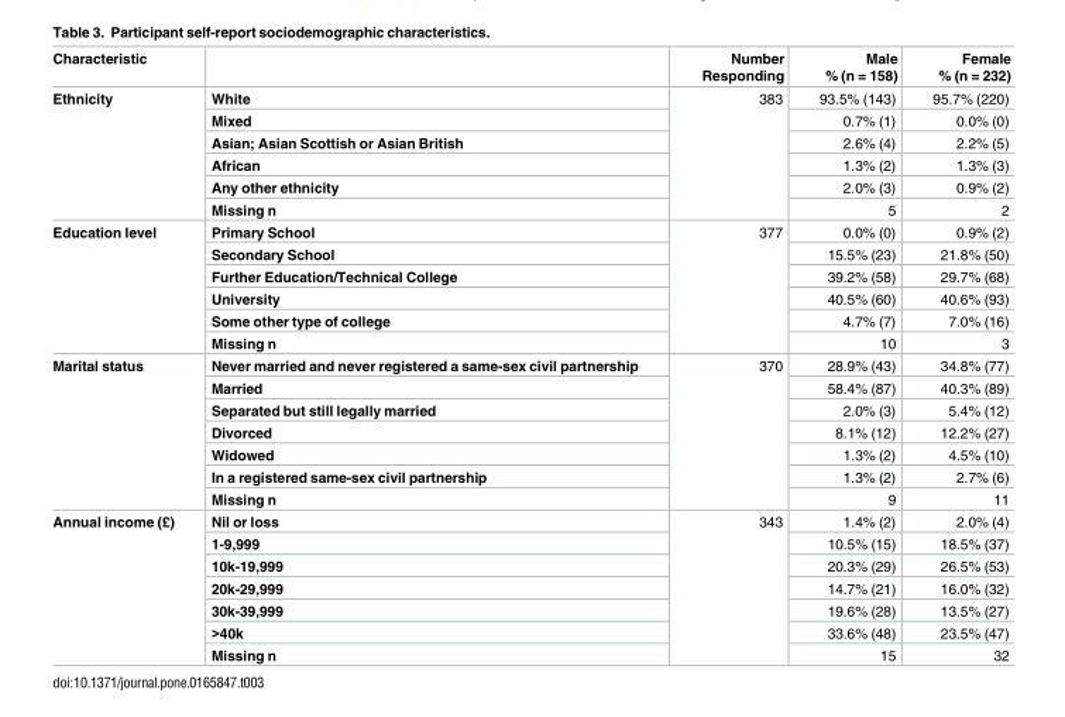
<table><thead><tr><td>Characteristic</td><td></td><td>Number Responding</td><td>Male % (n = 158)</td><td>Female % (n = 232)</td></tr></thead><tbody><tr><td rowspan="6">Ethnicity</td><td>White</td><td rowspan="6">383</td><td>93.5% (143)</td><td>95.7% (220)</td></tr><tr><td>Mixed</td><td>0.7% (1)</td><td>0.0% (0)</td></tr><tr><td>Asian; Asian Scottish or Asian British</td><td>2.6% (4)</td><td>2.2% (5)</td></tr><tr><td>African</td><td>1.3% (2)</td><td>1.3% (3)</td></tr><tr><td>Any other ethnicity</td><td>2.0% (3)</td><td>0.9% (2)</td></tr><tr><td>Missing n</td><td>5</td><td>2</td></tr><tr><td rowspan="6">Education level</td><td>Primary School</td><td rowspan="6">377</td><td>0.0% (0)</td><td>0.9% (2)</td></tr><tr><td>Secondary School</td><td>15.5% (23)</td><td>21.8% (50)</td></tr><tr><td>Further Education/Technical College</td><td>39.2% (58)</td><td>29.7% (68)</td></tr><tr><td>University</td><td>40.5% (60)</td><td>40.6% (93)</td></tr><tr><td>Some other type of college</td><td>4.7% (7)</td><td>7.0% (16)</td></tr><tr><td>Missing n</td><td>10</td><td>3</td></tr><tr><td rowspan="7">Marital status</td><td>Never married and never registered a same-sex civil partnership</td><td rowspan="7">370</td><td>28.9% (43)</td><td>34.8% (77)</td></tr><tr><td>Married</td><td>58.4% (87)</td><td>40.3% (89)</td></tr><tr><td>Separated but still legally married</td><td>2.0% (3)</td><td>5.4% (12)</td></tr><tr><td>Divorced</td><td>8.1% (12)</td><td>12.2% (27)</td></tr><tr><td>Widowed</td><td>1.3% (2)</td><td>4.5% (10)</td></tr><tr><td>In a registered same-sex civil partnership</td><td>1.3% (2)</td><td>2.7% (6)</td></tr><tr><td>Missing n</td><td>9</td><td>11</td></tr><tr><td rowspan="7">Annual income (£)</td><td>Nil or loss</td><td rowspan="7">343</td><td>1.4% (2)</td><td>2.0% (4)</td></tr><tr><td>1-9,999</td><td>10.5% (15)</td><td>18.5% (37)</td></tr><tr><td>10k-19,999</td><td>20.3% (29)</td><td>26.5% (53)</td></tr><tr><td>20k-29,999</td><td>14.7% (21)</td><td>16.0% (32)</td></tr><tr><td>30k-39,999</td><td>19.6% (28)</td><td>13.5% (27)</td></tr><tr><td>&gt;40k</td><td>33.6% (48)</td><td>23.5% (47)</td></tr><tr><td>Missing n</td><td>15</td><td>32</td></tr></tbody></table>